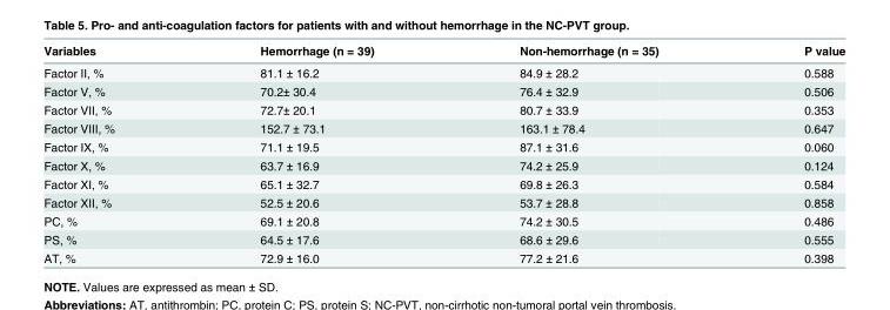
<table><thead><tr><td>Variables</td><td>Hemorrhage (n = 39)</td><td>Non-hemorrhage (n = 35)</td><td>P value</td></tr></thead><tbody><tr><td>Factor II, %</td><td>81.1 ± 16.2</td><td>84.9 ± 28.2</td><td>0.588</td></tr><tr><td>Factor V, %</td><td>70.2± 30.4</td><td>76.4 ± 32.9</td><td>0.506</td></tr><tr><td>Factor VII, %</td><td>72.7± 20.1</td><td>80.7 ± 33.9</td><td>0.353</td></tr><tr><td>Factor VIII, %</td><td>152.7 ± 73.1</td><td>163.1 ± 78.4</td><td>0.647</td></tr><tr><td>Factor IX, %</td><td>71.1 ± 19.5</td><td>87.1 ± 31.6</td><td>0.060</td></tr><tr><td>Factor X, %</td><td>63.7 ± 16.9</td><td>74.2 ± 25.9</td><td>0.124</td></tr><tr><td>Factor XI, %</td><td>65.1 ± 32.7</td><td>69.8 ± 26.3</td><td>0.584</td></tr><tr><td>Factor XII, %</td><td>52.5 ± 20.6</td><td>53.7 ± 28.8</td><td>0.858</td></tr><tr><td>PC, %</td><td>69.1 ± 20.8</td><td>74.2 ± 30.5</td><td>0.486</td></tr><tr><td>PS, %</td><td>64.5 ± 17.6</td><td>68.6 ± 29.6</td><td>0.555</td></tr><tr><td>AT, %</td><td>72.9 ± 16.0</td><td>77.2 ± 21.6</td><td>0.398</td></tr></tbody></table>